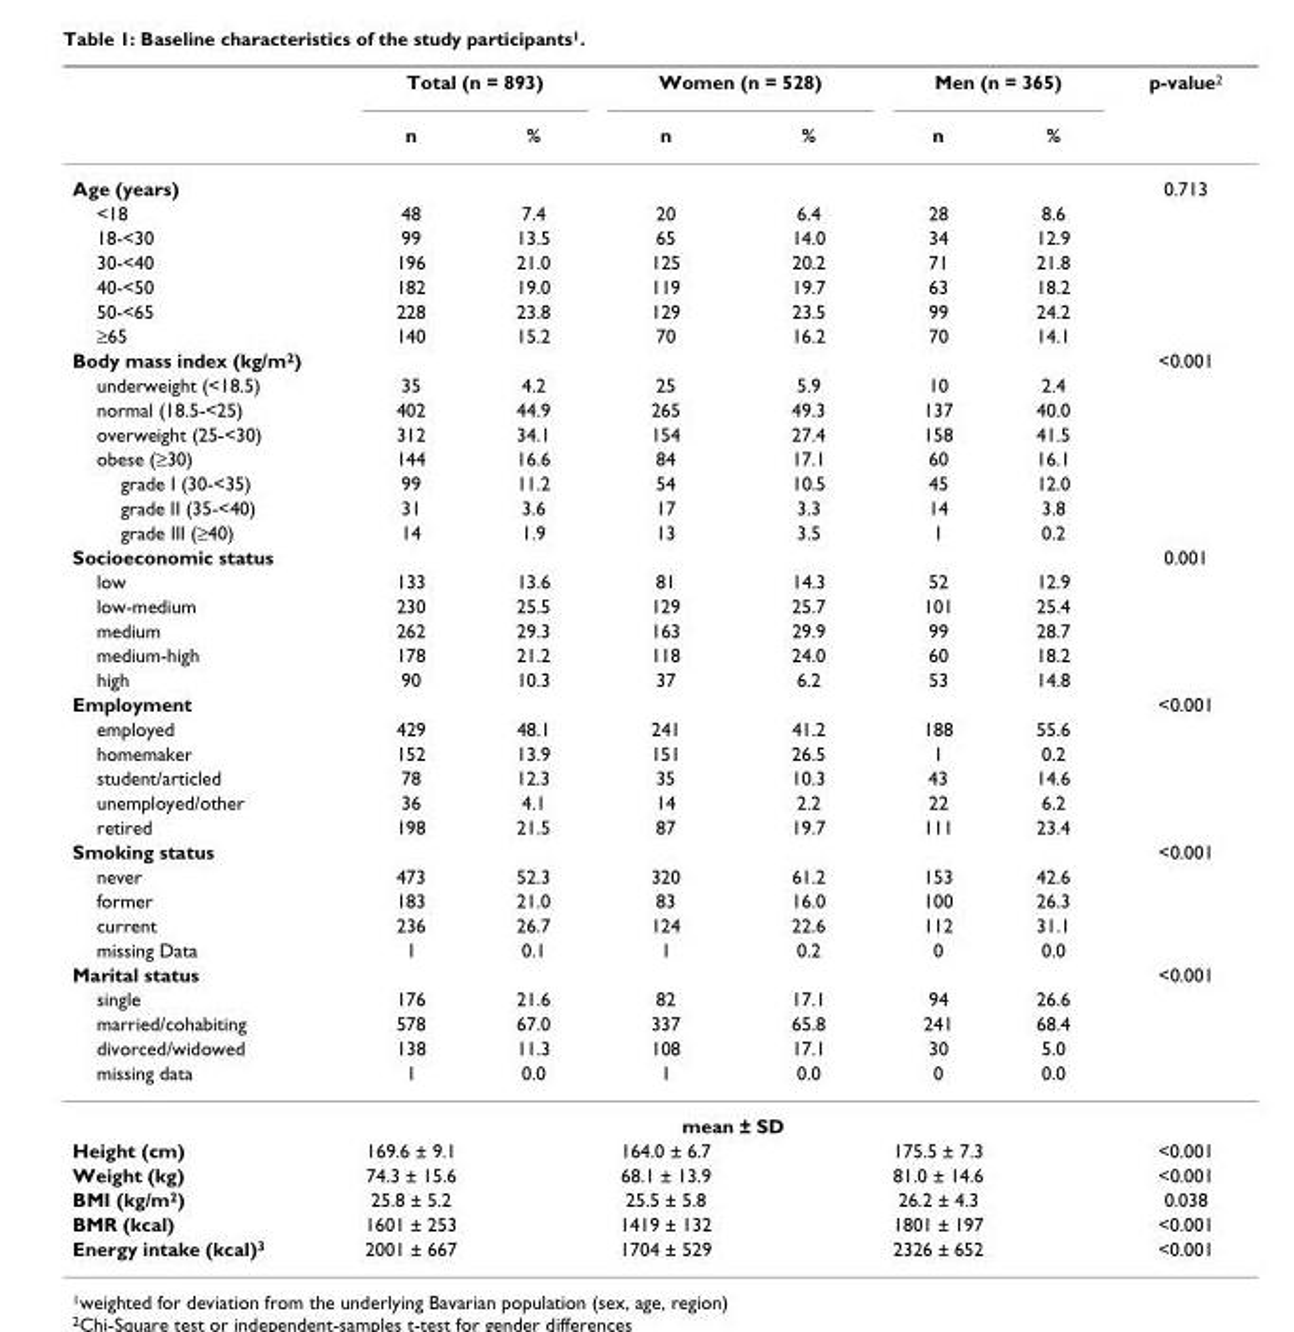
<table><thead><tr><td rowspan="2"></td><td colspan="2">Total (n = 893)</td><td colspan="2">Women (n = 528)</td><td colspan="2">Men (n = 365)</td><td rowspan="2">p-value<sup>2</sup></td></tr><tr><td>n</td><td>%</td><td>n</td><td>%</td><td>n</td><td>%</td></tr></thead><tbody><tr><td>Age (years)</td><td></td><td></td><td></td><td></td><td></td><td></td><td>0.713</td></tr><tr><td>&lt;18</td><td>48</td><td>7.4</td><td>20</td><td>6.4</td><td>28</td><td>8.6</td><td></td></tr><tr><td>18-&lt;30</td><td>99</td><td>13.5</td><td>65</td><td>14.0</td><td>34</td><td>12.9</td><td></td></tr><tr><td>30-&lt;40</td><td>196</td><td>21.0</td><td>125</td><td>20.2</td><td>71</td><td>21.8</td><td></td></tr><tr><td>40-&lt;50</td><td>182</td><td>19.0</td><td>119</td><td>19.7</td><td>63</td><td>18.2</td><td></td></tr><tr><td>50-&lt;65</td><td>228</td><td>23.8</td><td>129</td><td>23.5</td><td>99</td><td>24.2</td><td></td></tr><tr><td>≥65</td><td>140</td><td>15.2</td><td>70</td><td>16.2</td><td>70</td><td>14.1</td><td></td></tr><tr><td>Body mass index (kg/m<sup>2</sup>)</td><td></td><td></td><td></td><td></td><td></td><td></td><td>&lt;0.001</td></tr><tr><td>underweight (&lt;18.5)</td><td>35</td><td>4.2</td><td>25</td><td>5.9</td><td>10</td><td>2.4</td><td></td></tr><tr><td>normal (18.5-&lt;25)</td><td>402</td><td>44.9</td><td>265</td><td>49.3</td><td>137</td><td>40.0</td><td></td></tr><tr><td>overweight (25-&lt;30)</td><td>312</td><td>34.1</td><td>154</td><td>27.4</td><td>158</td><td>41.5</td><td></td></tr><tr><td>obese (≥30)</td><td>144</td><td>16.6</td><td>84</td><td>17.1</td><td>60</td><td>16.1</td><td></td></tr><tr><td>grade I (30-&lt;35)</td><td>99</td><td>11.2</td><td>54</td><td>10.5</td><td>45</td><td>12.0</td><td></td></tr><tr><td>grade II (35-&lt;40)</td><td>31</td><td>3.6</td><td>17</td><td>3.3</td><td>14</td><td>3.8</td><td></td></tr><tr><td>grade III (≥40)</td><td>14</td><td>1.9</td><td>13</td><td>3.5</td><td>1</td><td>0.2</td><td></td></tr><tr><td>Socioeconomic status</td><td></td><td></td><td></td><td></td><td></td><td></td><td>0.001</td></tr><tr><td>low</td><td>133</td><td>13.6</td><td>81</td><td>14.3</td><td>52</td><td>12.9</td><td></td></tr><tr><td>low-medium</td><td>230</td><td>25.5</td><td>129</td><td>25.7</td><td>101</td><td>25.4</td><td></td></tr><tr><td>medium</td><td>262</td><td>29.3</td><td>163</td><td>29.9</td><td>99</td><td>28.7</td><td></td></tr><tr><td>medium-high</td><td>178</td><td>21.2</td><td>118</td><td>24.0</td><td>60</td><td>18.2</td><td></td></tr><tr><td>high</td><td>90</td><td>10.3</td><td>37</td><td>6.2</td><td>53</td><td>14.8</td><td></td></tr><tr><td>Employment</td><td></td><td></td><td></td><td></td><td></td><td></td><td>&lt;0.001</td></tr><tr><td>employed</td><td>429</td><td>48.1</td><td>241</td><td>41.2</td><td>188</td><td>55.6</td><td></td></tr><tr><td>homemaker</td><td>152</td><td>13.9</td><td>151</td><td>26.5</td><td>1</td><td>0.2</td><td></td></tr><tr><td>student/articled</td><td>78</td><td>12.3</td><td>35</td><td>10.3</td><td>43</td><td>14.6</td><td></td></tr><tr><td>unemployed/other</td><td>36</td><td>4.1</td><td>14</td><td>2.2</td><td>22</td><td>6.2</td><td></td></tr><tr><td>retired</td><td>198</td><td>21.5</td><td>87</td><td>19.7</td><td>111</td><td>23.4</td><td></td></tr><tr><td>Smoking status</td><td></td><td></td><td></td><td></td><td></td><td></td><td>&lt;0.001</td></tr><tr><td>never</td><td>473</td><td>52.3</td><td>320</td><td>61.2</td><td>153</td><td>42.6</td><td></td></tr><tr><td>former</td><td>183</td><td>21.0</td><td>83</td><td>16.0</td><td>100</td><td>26.3</td><td></td></tr><tr><td>current</td><td>236</td><td>26.7</td><td>124</td><td>22.6</td><td>112</td><td>31.1</td><td></td></tr><tr><td>missing Data</td><td>1</td><td>0.1</td><td>1</td><td>0.2</td><td>0</td><td>0.0</td><td></td></tr><tr><td>Marital status</td><td></td><td></td><td></td><td></td><td></td><td></td><td>&lt;0.001</td></tr><tr><td>single</td><td>176</td><td>21.6</td><td>82</td><td>17.1</td><td>94</td><td>26.6</td><td></td></tr><tr><td>married/cohabiting</td><td>578</td><td>67.0</td><td>337</td><td>65.8</td><td>241</td><td>68.4</td><td></td></tr><tr><td>divorced/widowed</td><td>138</td><td>11.3</td><td>108</td><td>17.1</td><td>30</td><td>5.0</td><td></td></tr><tr><td rowspan="2">missing data</td><td>1</td><td>0.0</td><td>1</td><td>0.0</td><td>0</td><td>0.0</td><td></td></tr><tr><td colspan="6">mean ± SD</td><td></td></tr><tr><td>Height (cm)</td><td>169.6 ± 9.1</td><td></td><td>164.0 ± 6.7</td><td></td><td>175.5 ± 7.3</td><td></td><td>&lt;0.001</td></tr><tr><td>Weight (kg)</td><td>74.3 ± 15.6</td><td></td><td>68.1 ± 13.9</td><td></td><td>81.0 ± 14.6</td><td></td><td>&lt;0.001</td></tr><tr><td>BMI (kg/m<sup>2</sup>)</td><td>25.8 ± 5.2</td><td></td><td>25.5 ± 5.8</td><td></td><td>26.2 ± 4.3</td><td></td><td>0.038</td></tr><tr><td>BMR (kcal)</td><td>1601 ± 253</td><td></td><td>1419 ± 132</td><td></td><td>1801 ± 197</td><td></td><td>&lt;0.001</td></tr><tr><td>Energy intake (kcal)<sup>3</sup></td><td>2001 ± 667</td><td></td><td>1704 ± 529</td><td></td><td>2326 ± 652</td><td></td><td>&lt;0.001</td></tr></tbody></table>